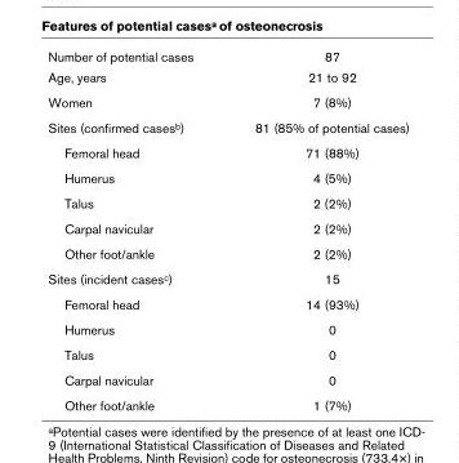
<table><tbody><tr><td>Number of potential cases</td><td>87</td></tr><tr><td>Age, years</td><td>21 to 92</td></tr><tr><td>Women</td><td>7 (8%)</td></tr><tr><td>Sites (confirmed cases<sup>b</sup>)</td><td>81 (85% of potential cases)</td></tr><tr><td>Femoral head</td><td>71 (88%)</td></tr><tr><td>Humerus</td><td>4 (5%)</td></tr><tr><td>Talus</td><td>2 (2%)</td></tr><tr><td>Carpal navicular</td><td>2 (2%)</td></tr><tr><td>Other foot/ankle</td><td>2 (2%)</td></tr><tr><td>Sites (incident cases<sup>c</sup>)</td><td>15</td></tr><tr><td>Femoral head</td><td>14 (93%)</td></tr><tr><td>Humerus</td><td>0</td></tr><tr><td>Talus</td><td>0</td></tr><tr><td>Carpal navicular</td><td>0</td></tr><tr><td>Other foot/ankle</td><td>1 (7%)</td></tr></tbody></table>